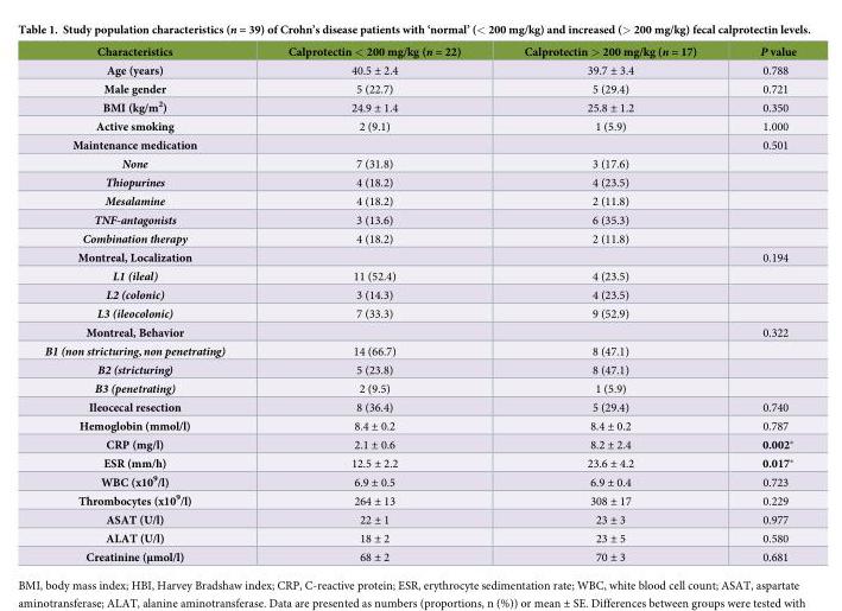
<table><thead><tr><td>Characteristics</td><td>Calprotectin &lt; 200 mg/kg (n = 22)</td><td>Calprotectin &gt; 200 mg/kg (n = 17)</td><td>P value</td></tr></thead><tbody><tr><td>Age (years)</td><td>40.5 ± 2.4</td><td>39.7 ± 3.4</td><td>0.788</td></tr><tr><td>Male gender</td><td>5 (22.7)</td><td>5 (29.4)</td><td>0.721</td></tr><tr><td>BMI (kg/m<sup>2</sup>)</td><td>24.9 ± 1.4</td><td>25.8 ± 1.2</td><td>0.350</td></tr><tr><td>Active smoking</td><td>2 (9.1)</td><td>1 (5.9)</td><td>1.000</td></tr><tr><td>Maintenance medication</td><td></td><td></td><td>0.501</td></tr><tr><td>None</td><td>7 (31.8)</td><td>3 (17.6)</td><td></td></tr><tr><td>Thiopurines</td><td>4 (18.2)</td><td>4 (23.5)</td><td></td></tr><tr><td>Mesalamine</td><td>4 (18.2)</td><td>2 (11.8)</td><td></td></tr><tr><td>TNF-antagonists</td><td>3 (13.6)</td><td>6 (35.3)</td><td></td></tr><tr><td>Combination therapy</td><td>4 (18.2)</td><td>2 (11.8)</td><td></td></tr><tr><td>Montreal, Localization</td><td></td><td></td><td>0.194</td></tr><tr><td>L1 (ileal)</td><td>11 (52.4)</td><td>4 (23.5)</td><td></td></tr><tr><td>L2 (colonic)</td><td>3 (14.3)</td><td>4 (23.5)</td><td></td></tr><tr><td>L3 (ileocolonic)</td><td>7 (33.3)</td><td>9 (52.9)</td><td></td></tr><tr><td>Montreal, Behavior</td><td></td><td></td><td>0.322</td></tr><tr><td>B1 (non stricturing, non penetrating)</td><td>14 (66.7)</td><td>8 (47.1)</td><td></td></tr><tr><td>B2 (stricturing)</td><td>5 (23.8)</td><td>8 (47.1)</td><td></td></tr><tr><td>B3 (penetrating)</td><td>2 (9.5)</td><td>1 (5.9)</td><td></td></tr><tr><td>Ileocecal resection</td><td>8 (36.4)</td><td>5 (29.4)</td><td>0.740</td></tr><tr><td>Hemoglobin (mmol/l)</td><td>8.4 ± 0.2</td><td>8.4 ± 0.2</td><td>0.787</td></tr><tr><td>CRP (mg/l)</td><td>2.1 ± 0.6</td><td>8.2 ± 2.4</td><td>0.002*</td></tr><tr><td>ESR (mm/h)</td><td>12.5 ± 2.2</td><td>23.6 ± 4.2</td><td>0.017*</td></tr><tr><td>WBC (x10<sup>9</sup>/l)</td><td>6.9 ± 0.5</td><td>6.9 ± 0.4</td><td>0.723</td></tr><tr><td>Thrombocytes (x10<sup>9</sup>/l)</td><td>264 ± 13</td><td>308 ± 17</td><td>0.229</td></tr><tr><td>ASAT (U/l)</td><td>22 ± 1</td><td>23 ± 3</td><td>0.977</td></tr><tr><td>ALAT (U/l)</td><td>18 ± 2</td><td>23 ± 5</td><td>0.580</td></tr><tr><td>Creatinine (μmol/l)</td><td>68 ± 2</td><td>70 ± 3</td><td>0.681</td></tr></tbody></table>